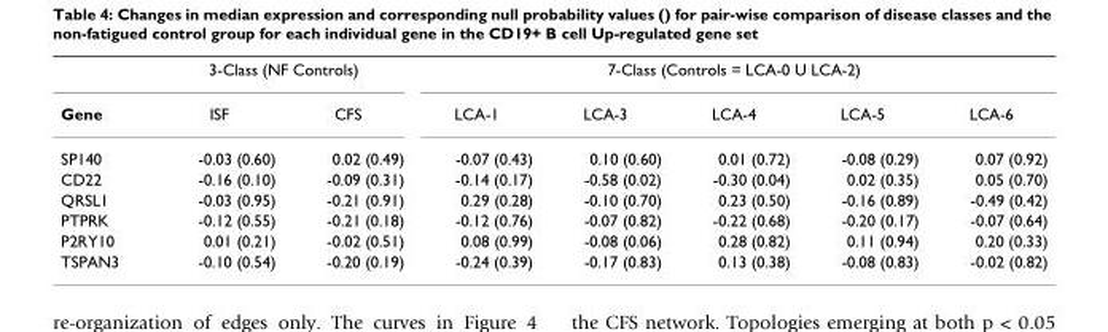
<table><thead><tr><td rowspan="2">Gene</td><td colspan="2">3-Class (NF Controls)</td><td colspan="5">7-Class (Controls = LCA-0 U LCA-2)</td></tr><tr><td>ISF</td><td>CFS</td><td>LCA-1</td><td>LCA-3</td><td>LCA-4</td><td>LCA-5</td><td>LCA-6</td></tr></thead><tbody><tr><td>SP140</td><td>-0.03 (0.60)</td><td>0.02 (0.49)</td><td>-0.07 (0.43)</td><td>0.10 (0.60)</td><td>0.01 (0.72)</td><td>-0.08 (0.29)</td><td>0.07 (0.92)</td></tr><tr><td>CD22</td><td>-0.16 (0.10)</td><td>-0.09 (0.31)</td><td>-0.14 (0.17)</td><td>-0.58 (0.02)</td><td>-0.30 (0.04)</td><td>0.02 (0.35)</td><td>0.05 (0.70)</td></tr><tr><td>QRSL1</td><td>-0.03 (0.95)</td><td>-0.21 (0.91)</td><td>0.29 (0.28)</td><td>-0.10 (0.70)</td><td>0.23 (0.50)</td><td>-0.16 (0.89)</td><td>-0.49 (0.42)</td></tr><tr><td>PTPRK</td><td>-0.12 (0.55)</td><td>-0.21 (0.18)</td><td>-0.12 (0.76)</td><td>-0.07 (0.82)</td><td>-0.22 (0.68)</td><td>-0.20 (0.17)</td><td>-0.07 (0.64)</td></tr><tr><td>P2RY10</td><td>0.01 (0.21)</td><td>-0.02 (0.51)</td><td>0.08 (0.99)</td><td>-0.08 (0.06)</td><td>0.28 (0.82)</td><td>0.11 (0.94)</td><td>0.20 (0.33)</td></tr><tr><td>TSPAN3</td><td>-0.10 (0.54)</td><td>-0.20 (0.19)</td><td>-0.24 (0.39)</td><td>-0.17 (0.83)</td><td>0.13 (0.38)</td><td>-0.08 (0.83)</td><td>-0.02 (0.82)</td></tr></tbody></table>